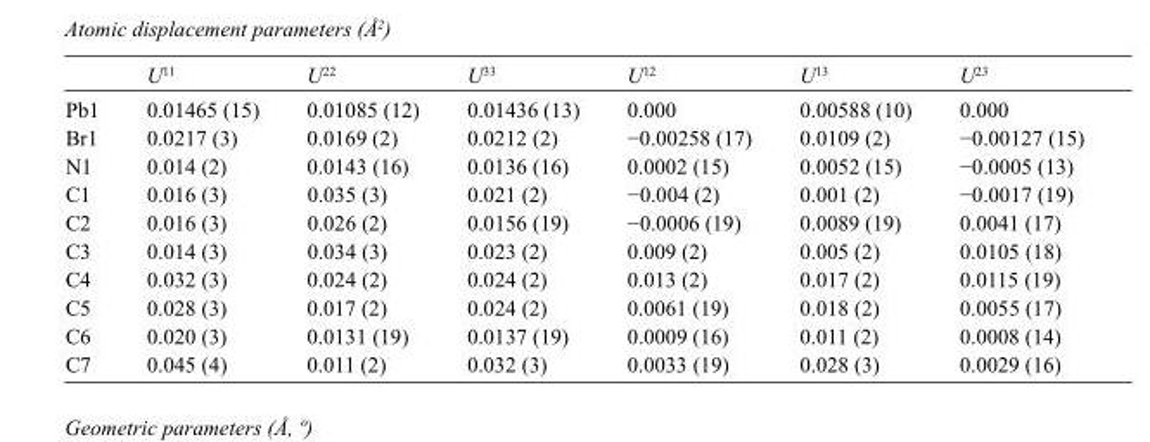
<table><thead><tr><td></td><td>U<sup>11</sup></td><td>U<sup>22</sup></td><td>U<sup>33</sup></td><td>U<sup>12</sup></td><td>U<sup>13</sup></td><td>U<sup>23</sup></td></tr></thead><tbody><tr><td>Pb1</td><td>0.01465 (15)</td><td>0.01085 (12)</td><td>0.01436 (13)</td><td>0.000</td><td>0.00588 (10)</td><td>0.000</td></tr><tr><td>Br1</td><td>0.0217 (3)</td><td>0.0169 (2)</td><td>0.0212 (2)</td><td>−0.00258 (17)</td><td>0.0109 (2)</td><td>−0.00127 (15)</td></tr><tr><td>N1</td><td>0.014 (2)</td><td>0.0143 (16)</td><td>0.0136 (16)</td><td>0.0002 (15)</td><td>0.0052 (15)</td><td>−0.0005 (13)</td></tr><tr><td>C1</td><td>0.016 (3)</td><td>0.035 (3)</td><td>0.021 (2)</td><td>−0.004 (2)</td><td>0.001 (2)</td><td>−0.0017 (19)</td></tr><tr><td>C2</td><td>0.016 (3)</td><td>0.026 (2)</td><td>0.0156 (19)</td><td>−0.0006 (19)</td><td>0.0089 (19)</td><td>0.0041 (17)</td></tr><tr><td>C3</td><td>0.014 (3)</td><td>0.034 (3)</td><td>0.023 (2)</td><td>0.009 (2)</td><td>0.005 (2)</td><td>0.0105 (18)</td></tr><tr><td>C4</td><td>0.032 (3)</td><td>0.024 (2)</td><td>0.024 (2)</td><td>0.013 (2)</td><td>0.017 (2)</td><td>0.0115 (19)</td></tr><tr><td>C5</td><td>0.028 (3)</td><td>0.017 (2)</td><td>0.024 (2)</td><td>0.0061 (19)</td><td>0.018 (2)</td><td>0.0055 (17)</td></tr><tr><td>C6</td><td>0.020 (3)</td><td>0.0131 (19)</td><td>0.0137 (19)</td><td>0.0009 (16)</td><td>0.011 (2)</td><td>0.0008 (14)</td></tr><tr><td>C7</td><td>0.045 (4)</td><td>0.011 (2)</td><td>0.032 (3)</td><td>0.0033 (19)</td><td>0.028 (3)</td><td>0.0029 (16)</td></tr></tbody></table>